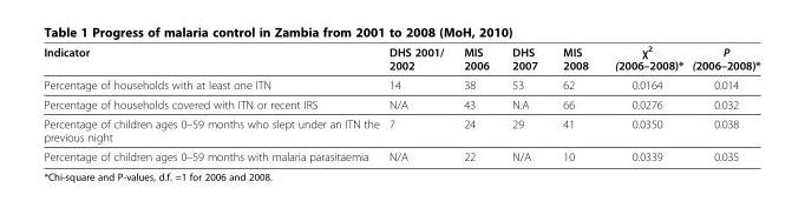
<table><thead><tr><td>Indicator</td><td>DHS 2001/ 2002</td><td>MIS 2006</td><td>DHS 2007</td><td>MIS 2008</td><td>χ<sup>2</sup> (2006–2008)*</td><td>P (2006–2008)*</td></tr></thead><tbody><tr><td>Percentage of households with at least one ITN</td><td>14</td><td>38</td><td>53</td><td>62</td><td>0.0164</td><td>0.014</td></tr><tr><td>Percentage of households covered with ITN or recent IRS</td><td>N/A</td><td>43</td><td>N.A</td><td>66</td><td>0.0276</td><td>0.032</td></tr><tr><td>Percentage of children ages 0–59 months who slept under an ITN the previous night</td><td>7</td><td>24</td><td>29</td><td>41</td><td>0.0350</td><td>0.038</td></tr><tr><td>Percentage of children ages 0–59 months with malaria parasitaemia</td><td>N/A</td><td>22</td><td>N/A</td><td>10</td><td>0.0339</td><td>0.035</td></tr></tbody></table>